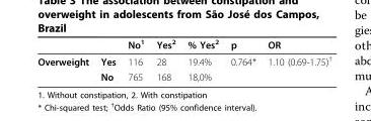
<table><thead><tr><td></td><td></td><td>No<sup>1</sup></td><td>Yes<sup>2</sup></td><td>% Yes<sup>2</sup></td><td>p</td><td>OR</td></tr></thead><tbody><tr><td rowspan="2">Overweight</td><td>Yes</td><td>116</td><td>28</td><td>19.4%</td><td>0.764*</td><td>1.10 (0.69-1.75)<sup>†</sup></td></tr><tr><td>No</td><td>765</td><td>168</td><td>18,0%</td><td></td><td></td></tr></tbody></table>